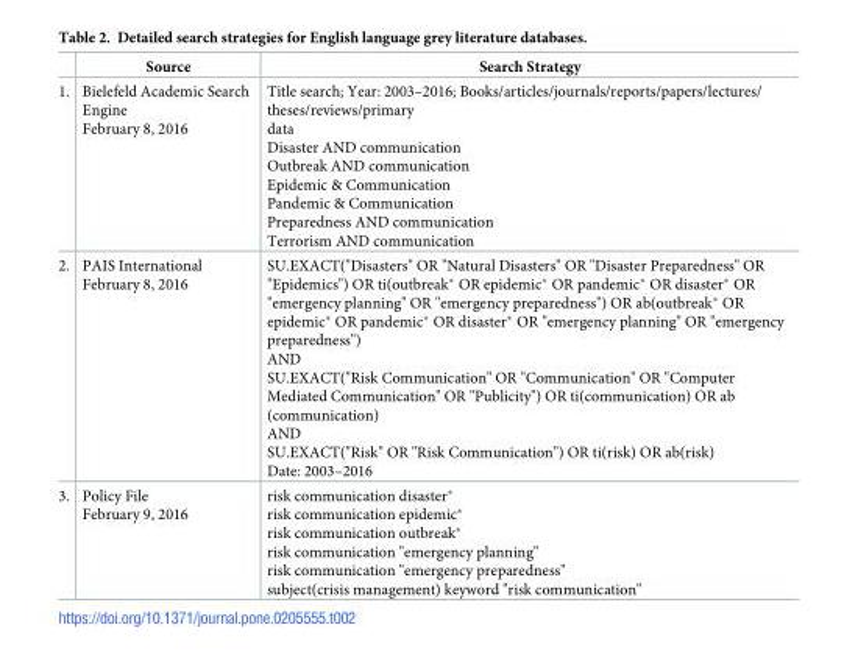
<table><thead><tr><td></td><td>Source</td><td>Search Strategy</td></tr></thead><tbody><tr><td>1.</td><td>Bielefeld Academic Search Engine February 8, 2016</td><td>Title search; Year: 2003–2016; Books/articles/journals/reports/papers/lectures/ theses/reviews/primary data Disaster AND communication Outbreak AND communication Epidemic &amp; Communication Pandemic &amp; Communication Preparedness AND communication Terrorism AND communication</td></tr><tr><td>2.</td><td>PAIS International February 8, 2016</td><td>SU.EXACT(&quot;Disasters&quot; OR &quot;Natural Disasters&quot; OR &quot;Disaster Preparedness&quot; OR &quot;Epidemics&quot;) OR ti(outbreak* OR epidemic* OR pandemic* OR disaster* OR &quot;emergency planning&quot; OR &quot;emergency preparedness&quot;) OR ab(outbreak* OR epidemic* OR pandemic* OR disaster* OR &quot;emergency planning&quot; OR &quot;emergency preparedness&quot;) AND SU.EXACT(&quot;Risk Communication&quot; OR &quot;Communication&quot; OR &quot;Computer Mediated Communication&quot; OR &quot;Publicity&quot;) OR ti(communication) OR ab (communication) AND SU.EXACT(&quot;Risk&quot; OR &quot;Risk Communication&quot;) OR ti(risk) OR ab(risk) Date: 2003–2016</td></tr><tr><td>3.</td><td>Policy File February 9, 2016</td><td>risk communication disaster* risk communication epidemic* risk communication outbreak* risk communication &quot;emergency planning&quot; risk communication &quot;emergency preparedness&quot; subject(crisis management) keyword &quot;risk communication&quot;</td></tr></tbody></table>